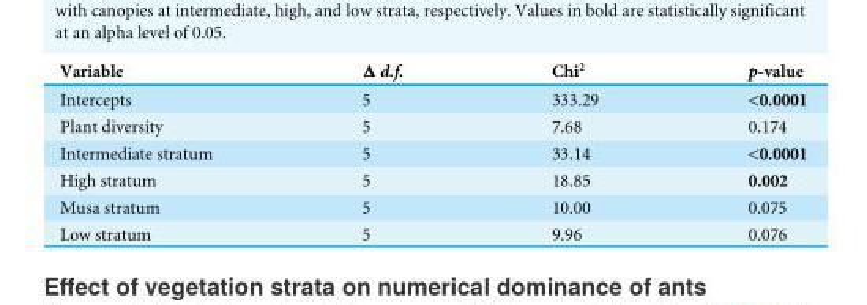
<table><thead><tr><td>Variable</td><td>Δ d.f.</td><td>Chi<sup>2</sup></td><td>p-value</td></tr></thead><tbody><tr><td>Intercepts</td><td>5</td><td>333.29</td><td>&lt;0.0001</td></tr><tr><td>Plant diversity</td><td>5</td><td>7.68</td><td>0.174</td></tr><tr><td>Intermediate stratum</td><td>5</td><td>33.14</td><td>&lt;0.0001</td></tr><tr><td>High stratum</td><td>5</td><td>18.85</td><td>0.002</td></tr><tr><td>Musa stratum</td><td>5</td><td>10.00</td><td>0.075</td></tr><tr><td>Low stratum</td><td>5</td><td>9.96</td><td>0.076</td></tr></tbody></table>